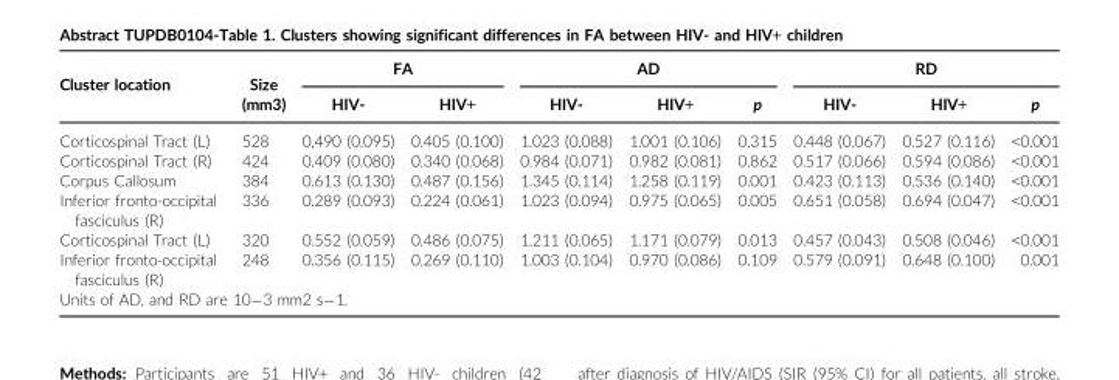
<table><thead><tr><td rowspan="2">Cluster location</td><td rowspan="2">Size (mm3)</td><td colspan="2">FA</td><td colspan="3">AD</td><td colspan="3">RD</td></tr><tr><td>HIV-</td><td>HIV+</td><td>HIV-</td><td>HIV+</td><td>p</td><td>HIV-</td><td>HIV+</td><td>p</td></tr></thead><tbody><tr><td>Corticospinal Tract (L)</td><td>528</td><td>0,490 (0.095)</td><td>0.405 (0.100)</td><td>1.023 (0.088)</td><td>1.001 (0.106)</td><td>0.315</td><td>0.448 (0.067)</td><td>0.527 (0.116)</td><td>&lt;0.001</td></tr><tr><td>Corticospinal Tract (R)</td><td>424</td><td>0.409 (0.080)</td><td>0.340 (0.068)</td><td>0.984 (0.071)</td><td>0.982 (0.081)</td><td>0.862</td><td>0.517 (0.066)</td><td>0.594 (0.086)</td><td>&lt;0.001</td></tr><tr><td>Corpus Callosum</td><td>384</td><td>0.613 (0.130)</td><td>0.487 (0.156)</td><td>1.345 (0.114)</td><td>1.258 (0.119)</td><td>0.001</td><td>0.423 (0.113)</td><td>0.536 (0.140)</td><td>&lt;0.001</td></tr><tr><td>Inferior fronto-occipital fasciculus (R)</td><td>336</td><td>0.289 (0.093)</td><td>0.224 (0.061)</td><td>1.023 (0.094)</td><td>0.975 (0.065)</td><td>0.005</td><td>0.651 (0.058)</td><td>0.694 (0.047)</td><td>&lt;0.001</td></tr><tr><td>Corticospinal Tract (L)</td><td>320</td><td>0.552 (0.059)</td><td>0.486 (0.075)</td><td>1.211 (0.065)</td><td>1.171 (0.079)</td><td>0.013</td><td>0.457 (0.043)</td><td>0.508 (0.046)</td><td>&lt;0.001</td></tr><tr><td>Inferior fronto-occipital fasciculus (R)</td><td>248</td><td>0.356 (0.115)</td><td>0.269 (0.110)</td><td>1.003 (0.104)</td><td>0.970 (0.086)</td><td>0.109</td><td>0.579 (0.091)</td><td>0.648 (0.100)</td><td>0.001</td></tr><tr><td colspan="10">Units of AD, and RD are 10−3 mm2 s−1.</td></tr></tbody></table>